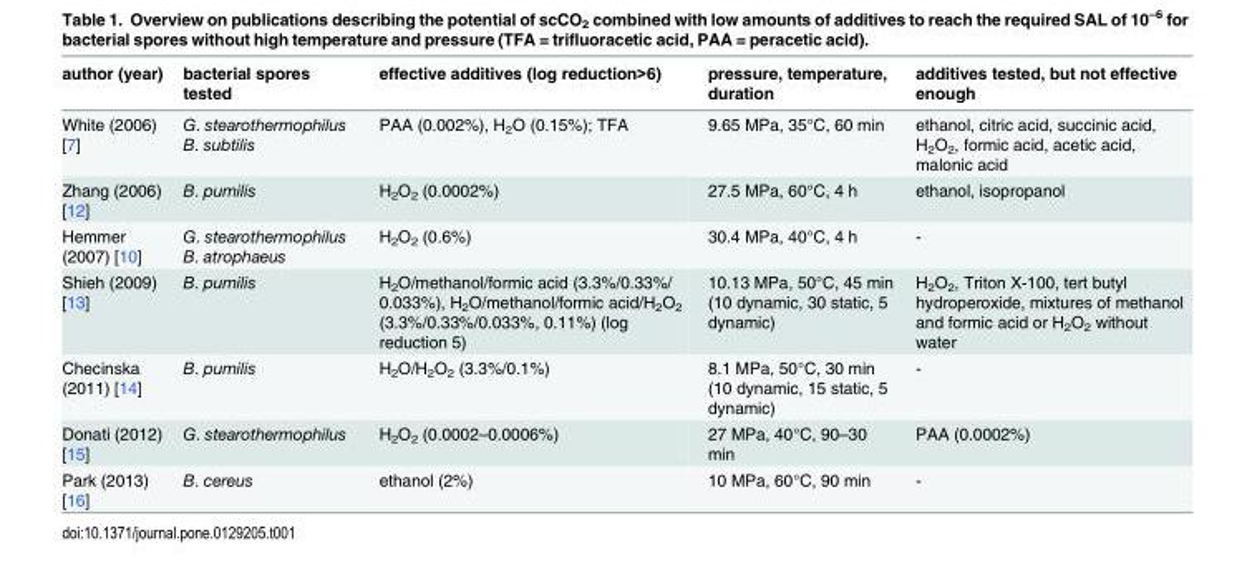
<table><thead><tr><td>author (year)</td><td>bacterial spores tested</td><td>effective additives (log reduction&gt;6)</td><td>pressure, temperature, duration</td><td>additives tested, but not effective enough</td></tr></thead><tbody><tr><td>White (2006) [7]</td><td>G. stearothermophilus B. subtilis</td><td>PAA (0.002%), H<sub>2</sub>O (0.15%); TFA</td><td>9.65 MPa, 35°C, 60 min</td><td>ethanol, citric acid, succinic acid, H<sub>2</sub>O<sub>2</sub>, formic acid, acetic acid, malonic acid</td></tr><tr><td>Zhang (2006) [12]</td><td>B. pumilis</td><td>H<sub>2</sub>O<sub>2</sub> (0.0002%)</td><td>27.5 MPa, 60°C, 4 h</td><td>ethanol, isopropanol</td></tr><tr><td>Hemmer (2007) [10]</td><td>G. stearothermophilus B. atrophaeus</td><td>H<sub>2</sub>O<sub>2</sub> (0.6%)</td><td>30.4 MPa, 40°C, 4 h</td><td>-</td></tr><tr><td>Shieh (2009) [13]</td><td>B. pumilis</td><td>H<sub>2</sub>O/methanol/formic acid (3.3%/0.33%/ 0.033%), H<sub>2</sub>O/methanol/formic acid/H<sub>2</sub>O<sub>2</sub> (3.3%/0.33%/0.033%, 0.11%) (log reduction 5)</td><td>10.13 MPa, 50°C, 45 min (10 dynamic, 30 static, 5 dynamic)</td><td>H<sub>2</sub>O<sub>2</sub>, Triton X-100, tert butyl hydroperoxide, mixtures of methanol and formic acid or H<sub>2</sub>O<sub>2</sub> without water</td></tr><tr><td>Checinska (2011) [14]</td><td>B. pumilis</td><td>H<sub>2</sub>O/H<sub>2</sub>O<sub>2</sub> (3.3%/0.1%)</td><td>8.1 MPa, 50°C, 30 min (10 dynamic, 15 static, 5 dynamic)</td><td>-</td></tr><tr><td>Donati (2012) [15]</td><td>G. stearothermophilus</td><td>H<sub>2</sub>O<sub>2</sub> (0.0002–0.0006%)</td><td>27 MPa, 40°C, 90–30 min</td><td>PAA (0.0002%)</td></tr><tr><td>Park (2013) [16]</td><td>B. cereus</td><td>ethanol (2%)</td><td>10 MPa, 60°C, 90 min</td><td>-</td></tr></tbody></table>